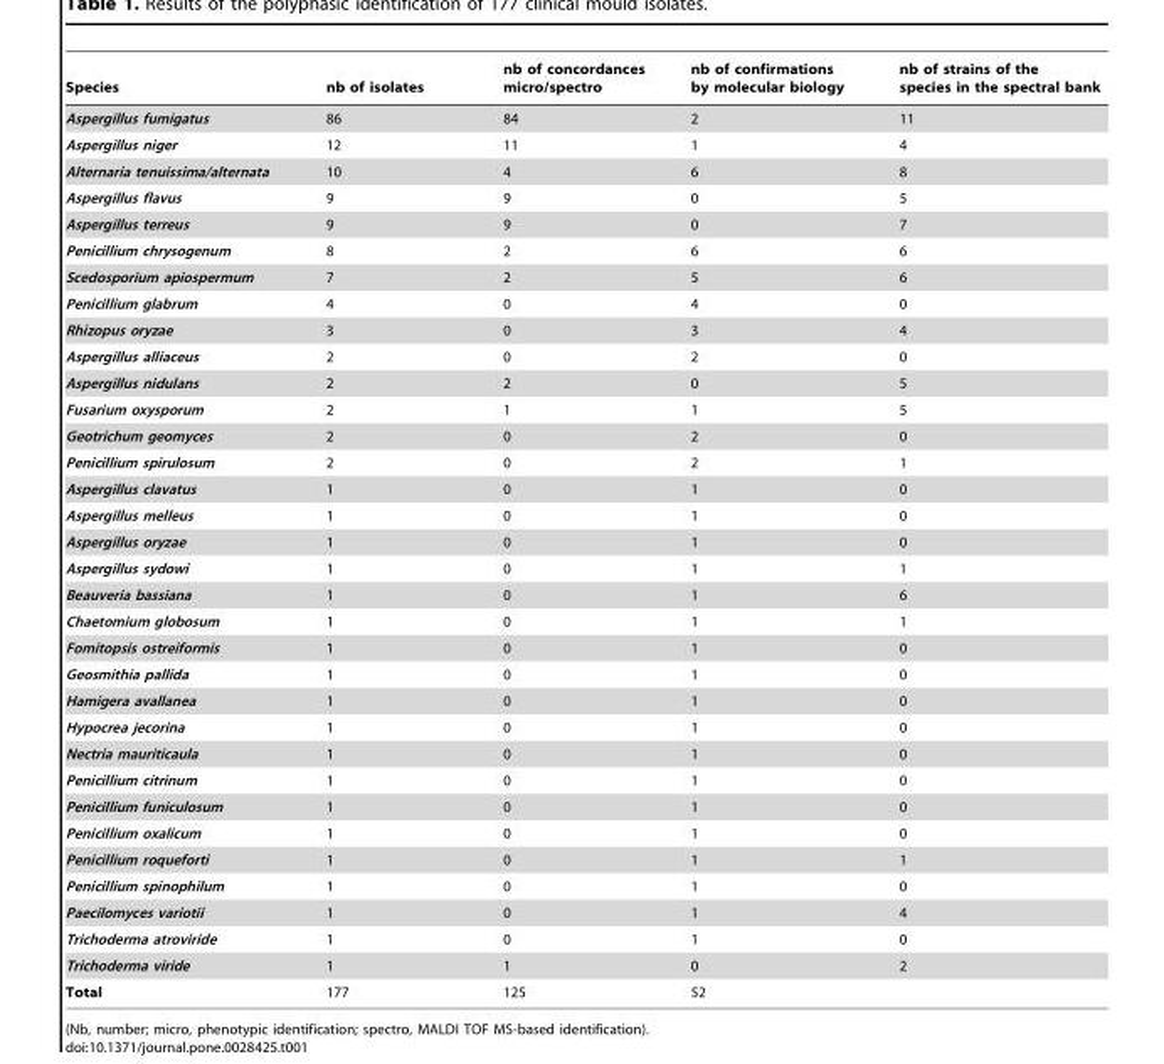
<table><thead><tr><td>Species</td><td>nb of isolates</td><td>nb of concordances micro/spectro</td><td>nb of confirmations by molecular biology</td><td>nb of strains of the species in the spectral bank</td></tr></thead><tbody><tr><td>Aspergillus fumigatus</td><td>86</td><td>84</td><td>2</td><td>11</td></tr><tr><td>Aspergillus niger</td><td>12</td><td>11</td><td>1</td><td>4</td></tr><tr><td>Alternaria tenuissima/alternata</td><td>10</td><td>4</td><td>6</td><td>8</td></tr><tr><td>Aspergillus flavus</td><td>9</td><td>9</td><td>0</td><td>5</td></tr><tr><td>Aspergillus terreus</td><td>9</td><td>9</td><td>0</td><td>7</td></tr><tr><td>Penicillium chrysogenum</td><td>8</td><td>2</td><td>6</td><td>6</td></tr><tr><td>Scedosporium apiospermum</td><td>7</td><td>2</td><td>5</td><td>6</td></tr><tr><td>Penicillium glabrum</td><td>4</td><td>0</td><td>4</td><td>0</td></tr><tr><td>Rhizopus oryzae</td><td>3</td><td>0</td><td>3</td><td>4</td></tr><tr><td>Aspergillus alliaceus</td><td>2</td><td>0</td><td>2</td><td>0</td></tr><tr><td>Aspergillus nidulans</td><td>2</td><td>2</td><td>0</td><td>5</td></tr><tr><td>Fusarium oxysporum</td><td>2</td><td>1</td><td>1</td><td>5</td></tr><tr><td>Geotrichum geomyces</td><td>2</td><td>0</td><td>2</td><td>0</td></tr><tr><td>Penicillium spirulosum</td><td>2</td><td>0</td><td>2</td><td>1</td></tr><tr><td>Aspergillus clavatus</td><td>1</td><td>0</td><td>1</td><td>0</td></tr><tr><td>Aspergillus melleus</td><td>1</td><td>0</td><td>1</td><td>0</td></tr><tr><td>Aspergillus oryzae</td><td>1</td><td>0</td><td>1</td><td>0</td></tr><tr><td>Aspergillus sydowi</td><td>1</td><td>0</td><td>1</td><td>1</td></tr><tr><td>Beauveria bassiana</td><td>1</td><td>0</td><td>1</td><td>6</td></tr><tr><td>Chaetomium globosum</td><td>1</td><td>0</td><td>1</td><td>1</td></tr><tr><td>Fomitopsis ostreiformis</td><td>1</td><td>0</td><td>1</td><td>0</td></tr><tr><td>Geosmithia pallida</td><td>1</td><td>0</td><td>1</td><td>0</td></tr><tr><td>Hamigera avallanea</td><td>1</td><td>0</td><td>1</td><td>0</td></tr><tr><td>Hypocrea jecorina</td><td>1</td><td>0</td><td>1</td><td>0</td></tr><tr><td>Nectria mauriticaula</td><td>1</td><td>0</td><td>1</td><td>0</td></tr><tr><td>Penicillium citrinum</td><td>1</td><td>0</td><td>1</td><td>0</td></tr><tr><td>Penicillium funiculosum</td><td>1</td><td>0</td><td>1</td><td>0</td></tr><tr><td>Penicillium oxalicum</td><td>1</td><td>0</td><td>1</td><td>0</td></tr><tr><td>Penicillium roqueforti</td><td>1</td><td>0</td><td>1</td><td>1</td></tr><tr><td>Penicillium spinophilum</td><td>1</td><td>0</td><td>1</td><td>0</td></tr><tr><td>Paecilomyces variotii</td><td>1</td><td>0</td><td>1</td><td>4</td></tr><tr><td>Trichoderma atroviride</td><td>1</td><td>0</td><td>1</td><td>0</td></tr><tr><td>Trichoderma viride</td><td>1</td><td>1</td><td>0</td><td>2</td></tr><tr><td>Total</td><td>177</td><td>125</td><td>52</td><td></td></tr></tbody></table>